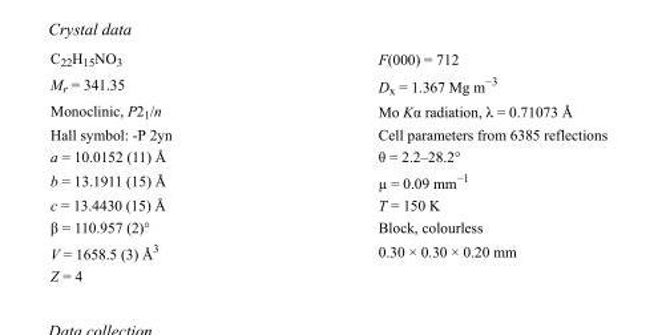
<table><tbody><tr><td>C<sub>22</sub>H<sub>15</sub>NO<sub>3</sub></td><td>F(000) = 712</td></tr><tr><td>M<sub>r</sub> = 341.35</td><td>D<sub>x</sub> = 1.367 Mg m<sup>−3</sup></td></tr><tr><td>Monoclinic, P2<sub>1</sub>/n</td><td>Mo Kα radiation, λ = 0.71073 Å</td></tr><tr><td>Hall symbol: -P 2yn</td><td>Cell parameters from 6385 reflections</td></tr><tr><td>a = 10.0152 (11) Å</td><td>θ = 2.2–28.2°</td></tr><tr><td>b = 13.1911 (15) Å</td><td>µ = 0.09 mm<sup>−1</sup></td></tr><tr><td>c = 13.4430 (15) Å</td><td>T = 150 K</td></tr><tr><td>β = 110.957 (2)°</td><td>Block, colourless</td></tr><tr><td>V = 1658.5 (3) Å<sup>3</sup></td><td>0.30 × 0.30 × 0.20 mm</td></tr><tr><td>Z = 4</td><td></td></tr></tbody></table>